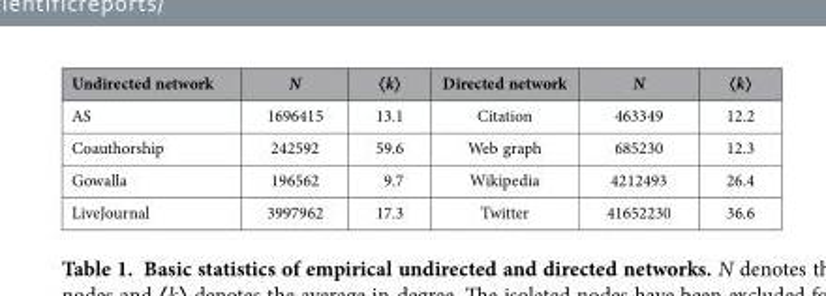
<table><thead><tr><td>Undirected network</td><td>N</td><td>〈k〉</td><td>Directed network</td><td>N</td><td>〈k〉</td></tr></thead><tbody><tr><td>AS</td><td>1696415</td><td>13.1</td><td>Citation</td><td>463349</td><td>12.2</td></tr><tr><td>Coauthorship</td><td>242592</td><td>59.6</td><td>Web graph</td><td>685230</td><td>12.3</td></tr><tr><td>Gowalla</td><td>196562</td><td>9.7</td><td>Wikipedia</td><td>4212493</td><td>26.4</td></tr><tr><td>LiveJournal</td><td>3997962</td><td>17.3</td><td>Twitter</td><td>41652230</td><td>36.6</td></tr></tbody></table>